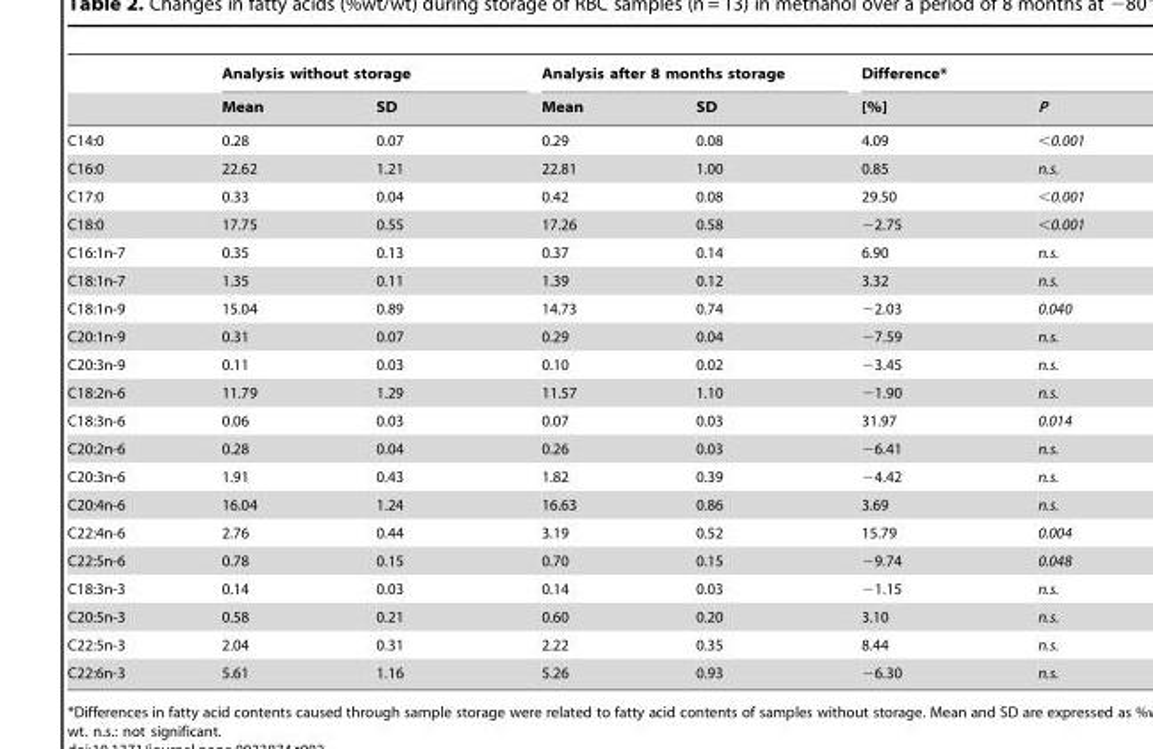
<table><thead><tr><td rowspan="2"></td><td colspan="2">Analysis without storage</td><td colspan="2">Analysis after 8 months storage</td><td colspan="2">Difference*</td></tr><tr><td>Mean</td><td>SD</td><td>Mean</td><td>SD</td><td>[%]</td><td>P</td></tr></thead><tbody><tr><td>C14:0</td><td>0.28</td><td>0.07</td><td>0.29</td><td>0.08</td><td>4.09</td><td>&lt;0.001</td></tr><tr><td>C16:0</td><td>22.62</td><td>1.21</td><td>22.81</td><td>1.00</td><td>0.85</td><td>n.s.</td></tr><tr><td>C17:0</td><td>0.33</td><td>0.04</td><td>0.42</td><td>0.08</td><td>29.50</td><td>&lt;0.001</td></tr><tr><td>C18:0</td><td>17.75</td><td>0.55</td><td>17.26</td><td>0.58</td><td>−2.75</td><td>&lt;0.001</td></tr><tr><td>C16:1n-7</td><td>0.35</td><td>0.13</td><td>0.37</td><td>0.14</td><td>6.90</td><td>n.s.</td></tr><tr><td>C18:1n-7</td><td>1.35</td><td>0.11</td><td>1.39</td><td>0.12</td><td>3.32</td><td>n.s.</td></tr><tr><td>C18:1n-9</td><td>15.04</td><td>0.89</td><td>14.73</td><td>0.74</td><td>−2.03</td><td>0.040</td></tr><tr><td>C20:1n-9</td><td>0.31</td><td>0.07</td><td>0.29</td><td>0.04</td><td>−7.59</td><td>n.s.</td></tr><tr><td>C20:3n-9</td><td>0.11</td><td>0.03</td><td>0.10</td><td>0.02</td><td>−3.45</td><td>n.s.</td></tr><tr><td>C18:2n-6</td><td>11.79</td><td>1.29</td><td>11.57</td><td>1.10</td><td>−1.90</td><td>n.s.</td></tr><tr><td>C18:3n-6</td><td>0.06</td><td>0.03</td><td>0.07</td><td>0.03</td><td>31.97</td><td>0.014</td></tr><tr><td>C20:2n-6</td><td>0.28</td><td>0.04</td><td>0.26</td><td>0.03</td><td>−6.41</td><td>n.s.</td></tr><tr><td>C20:3n-6</td><td>1.91</td><td>0.43</td><td>1.82</td><td>0.39</td><td>−4.42</td><td>n.s.</td></tr><tr><td>C20:4n-6</td><td>16.04</td><td>1.24</td><td>16.63</td><td>0.86</td><td>3.69</td><td>n.s.</td></tr><tr><td>C22:4n-6</td><td>2.76</td><td>0.44</td><td>3.19</td><td>0.52</td><td>15.79</td><td>0.004</td></tr><tr><td>C22:5n-6</td><td>0.78</td><td>0.15</td><td>0.70</td><td>0.15</td><td>−9.74</td><td>0.048</td></tr><tr><td>C18:3n-3</td><td>0.14</td><td>0.03</td><td>0.14</td><td>0.03</td><td>−1.15</td><td>n.s.</td></tr><tr><td>C20:5n-3</td><td>0.58</td><td>0.21</td><td>0.60</td><td>0.20</td><td>3.10</td><td>n.s.</td></tr><tr><td>C22:5n-3</td><td>2.04</td><td>0.31</td><td>2.22</td><td>0.35</td><td>8.44</td><td>n.s.</td></tr><tr><td>C22:6n-3</td><td>5.61</td><td>1.16</td><td>5.26</td><td>0.93</td><td>−6.30</td><td>n.s.</td></tr></tbody></table>